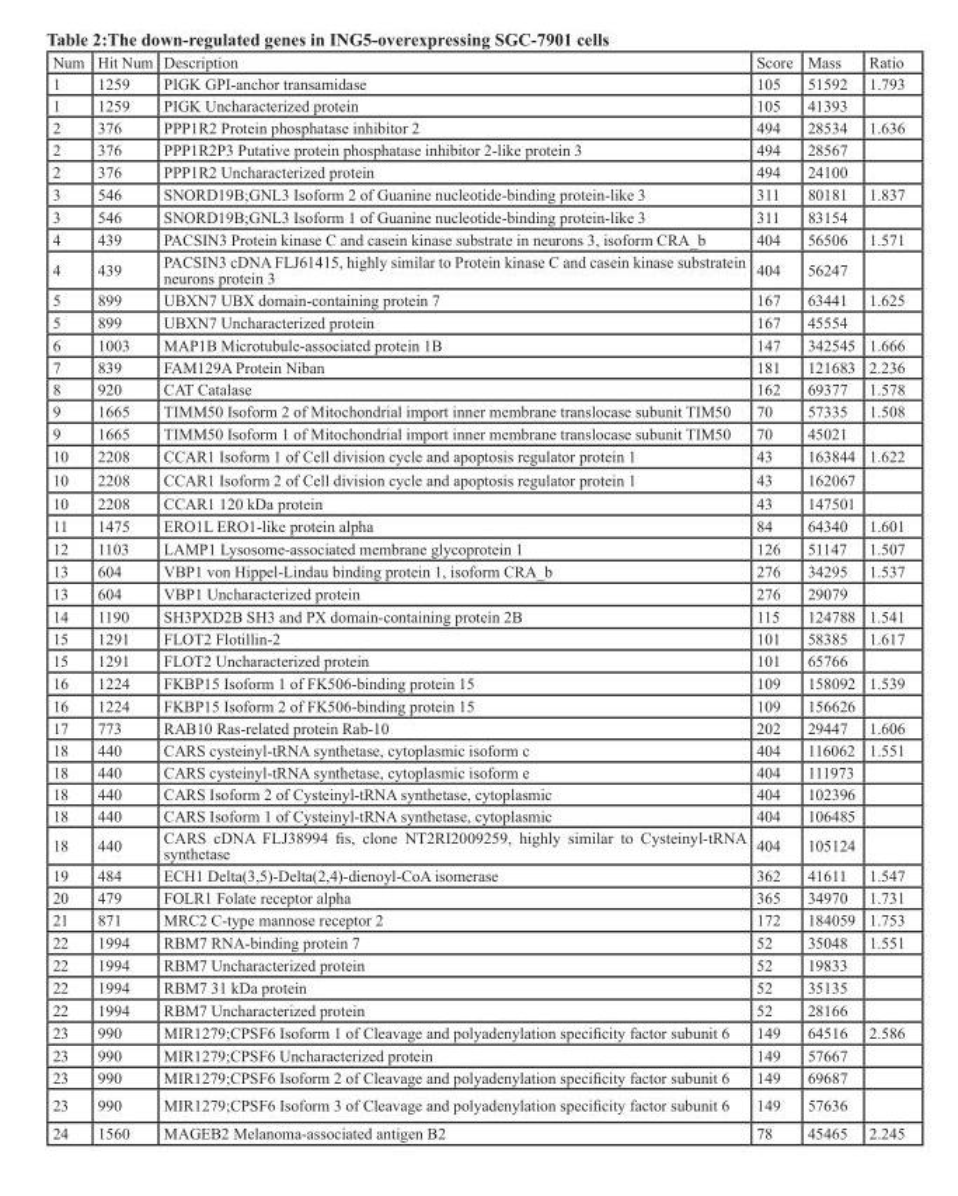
<table><thead><tr><td>Num</td><td>Hit Num</td><td>Description</td><td>Score</td><td>Mass</td><td>Ratio</td></tr></thead><tbody><tr><td>1</td><td>1259</td><td>PIGK GPI-anchor transamidase</td><td>105</td><td>51592</td><td>1.793</td></tr><tr><td>1</td><td>1259</td><td>PIGK Uncharacterized protein</td><td>105</td><td>41393</td><td></td></tr><tr><td>2</td><td>376</td><td>PPP1R2 Protein phosphatase inhibitor 2</td><td>494</td><td>28534</td><td>1.636</td></tr><tr><td>2</td><td>376</td><td>PPP1R2P3 Putative protein phosphatase inhibitor 2-like protein 3</td><td>494</td><td>28567</td><td></td></tr><tr><td>2</td><td>376</td><td>PPP1R2 Uncharacterized protein</td><td>494</td><td>24100</td><td></td></tr><tr><td>3</td><td>546</td><td>SNORD19B;GNL3 Isoform 2 of Guanine nucleotide-binding protein-like 3</td><td>311</td><td>80181</td><td>1.837</td></tr><tr><td>3</td><td>546</td><td>SNORD19B;GNL3 Isoform 1 of Guanine nucleotide-binding protein-like 3</td><td>311</td><td>83154</td><td></td></tr><tr><td>4</td><td>439</td><td>PACSIN3 Protein kinase C and casein kinase substrate in neurons 3, isoform CRA_b</td><td>404</td><td>56506</td><td>1.571</td></tr><tr><td>4</td><td>439</td><td>PACSIN3 cDNA FLJ61415, highly similar to Protein kinase C and casein kinase substratein neurons protein 3</td><td>404</td><td>56247</td><td></td></tr><tr><td>5</td><td>899</td><td>UBXN7 UBX domain-containing protein 7</td><td>167</td><td>63441</td><td>1.625</td></tr><tr><td>5</td><td>899</td><td>UBXN7 Uncharacterized protein</td><td>167</td><td>45554</td><td></td></tr><tr><td>6</td><td>1003</td><td>MAP1B Microtubule-associated protein 1B</td><td>147</td><td>342545</td><td>1.666</td></tr><tr><td>7</td><td>839</td><td>FAM129A Protein Niban</td><td>181</td><td>121683</td><td>2.236</td></tr><tr><td>8</td><td>920</td><td>CAT Catalase</td><td>162</td><td>69377</td><td>1.578</td></tr><tr><td>9</td><td>1665</td><td>TIMM50 Isoform 2 of Mitochondrial import inner membrane translocase subunit TIM50</td><td>70</td><td>57335</td><td>1.508</td></tr><tr><td>9</td><td>1665</td><td>TIMM50 Isoform 1 of Mitochondrial import inner membrane translocase subunit TIM50</td><td>70</td><td>45021</td><td></td></tr><tr><td>10</td><td>2208</td><td>CCAR1 Isoform 1 of Cell division cycle and apoptosis regulator protein 1</td><td>43</td><td>163844</td><td>1.622</td></tr><tr><td>10</td><td>2208</td><td>CCAR1 Isoform 2 of Cell division cycle and apoptosis regulator protein 1</td><td>43</td><td>162067</td><td></td></tr><tr><td>10</td><td>2208</td><td>CCAR1 120 kDa protein</td><td>43</td><td>147501</td><td></td></tr><tr><td>11</td><td>1475</td><td>ERO1L ERO1-like protein alpha</td><td>84</td><td>64340</td><td>1.601</td></tr><tr><td>12</td><td>1103</td><td>LAMP1 Lysosome-associated membrane glycoprotein 1</td><td>126</td><td>51147</td><td>1.507</td></tr><tr><td>13</td><td>604</td><td>VBP1 von Hippel-Lindau binding protein 1, isoform CRA_b</td><td>276</td><td>34295</td><td>1.537</td></tr><tr><td>13</td><td>604</td><td>VBP1 Uncharacterized protein</td><td>276</td><td>29079</td><td></td></tr><tr><td>14</td><td>1190</td><td>SH3PXD2B SH3 and PX domain-containing protein 2B</td><td>115</td><td>124788</td><td>1.541</td></tr><tr><td>15</td><td>1291</td><td>FLOT2 Flotillin-2</td><td>101</td><td>58385</td><td>1.617</td></tr><tr><td>15</td><td>1291</td><td>FLOT2 Uncharacterized protein</td><td>101</td><td>65766</td><td></td></tr><tr><td>16</td><td>1224</td><td>FKBP15 Isoform 1 of FK506-binding protein 15</td><td>109</td><td>158092</td><td>1.539</td></tr><tr><td>16</td><td>1224</td><td>FKBP15 Isoform 2 of FK506-binding protein 15</td><td>109</td><td>156626</td><td></td></tr><tr><td>17</td><td>773</td><td>RAB10 Ras-related protein Rab-10</td><td>202</td><td>29447</td><td>1.606</td></tr><tr><td>18</td><td>440</td><td>CARS cysteinyl-tRNA synthetase, cytoplasmic isoform c</td><td>404</td><td>116062</td><td>1.551</td></tr><tr><td>18</td><td>440</td><td>CARS cysteinyl-tRNA synthetase, cytoplasmic isoform e</td><td>404</td><td>111973</td><td></td></tr><tr><td>18</td><td>440</td><td>CARS Isoform 2 of Cysteinyl-tRNA synthetase, cytoplasmic</td><td>404</td><td>102396</td><td></td></tr><tr><td>18</td><td>440</td><td>CARS Isoform 1 of Cysteinyl-tRNA synthetase, cytoplasmic</td><td>404</td><td>106485</td><td></td></tr><tr><td>18</td><td>440</td><td>CARS cDNA FLJ38994 fis, clone NT2RI2009259, highly similar to Cysteinyl-tRNA synthetase</td><td>404</td><td>105124</td><td></td></tr><tr><td>19</td><td>484</td><td>ECH1 Delta(3,5)-Delta(2,4)-dienoyl-CoA isomerase</td><td>362</td><td>41611</td><td>1.547</td></tr><tr><td>20</td><td>479</td><td>FOLR1 Folate receptor alpha</td><td>365</td><td>34970</td><td>1.731</td></tr><tr><td>21</td><td>871</td><td>MRC2 C-type mannose receptor 2</td><td>172</td><td>184059</td><td>1.753</td></tr><tr><td>22</td><td>1994</td><td>RBM7 RNA-binding protein 7</td><td>52</td><td>35048</td><td>1.551</td></tr><tr><td>22</td><td>1994</td><td>RBM7 Uncharacterized protein</td><td>52</td><td>19833</td><td></td></tr><tr><td>22</td><td>1994</td><td>RBM7 31 kDa protein</td><td>52</td><td>35135</td><td></td></tr><tr><td>22</td><td>1994</td><td>RBM7 Uncharacterized protein</td><td>52</td><td>28166</td><td></td></tr><tr><td>23</td><td>990</td><td>MIR1279;CPSF6 Isoform 1 of Cleavage and polyadenylation specificity factor subunit 6</td><td>149</td><td>64516</td><td>2.586</td></tr><tr><td>23</td><td>990</td><td>MIR1279;CPSF6 Uncharacterized protein</td><td>149</td><td>57667</td><td></td></tr><tr><td>23</td><td>990</td><td>MIR1279;CPSF6 Isoform 2 of Cleavage and polyadenylation specificity factor subunit 6</td><td>149</td><td>69687</td><td></td></tr><tr><td>23</td><td>990</td><td>MIR1279;CPSF6 Isoform 3 of Cleavage and polyadenylation specificity factor subunit 6</td><td>149</td><td>57636</td><td></td></tr><tr><td>24</td><td>1560</td><td>MAGEB2 Melanoma-associated antigen B2</td><td>78</td><td>45465</td><td>2.245</td></tr></tbody></table>